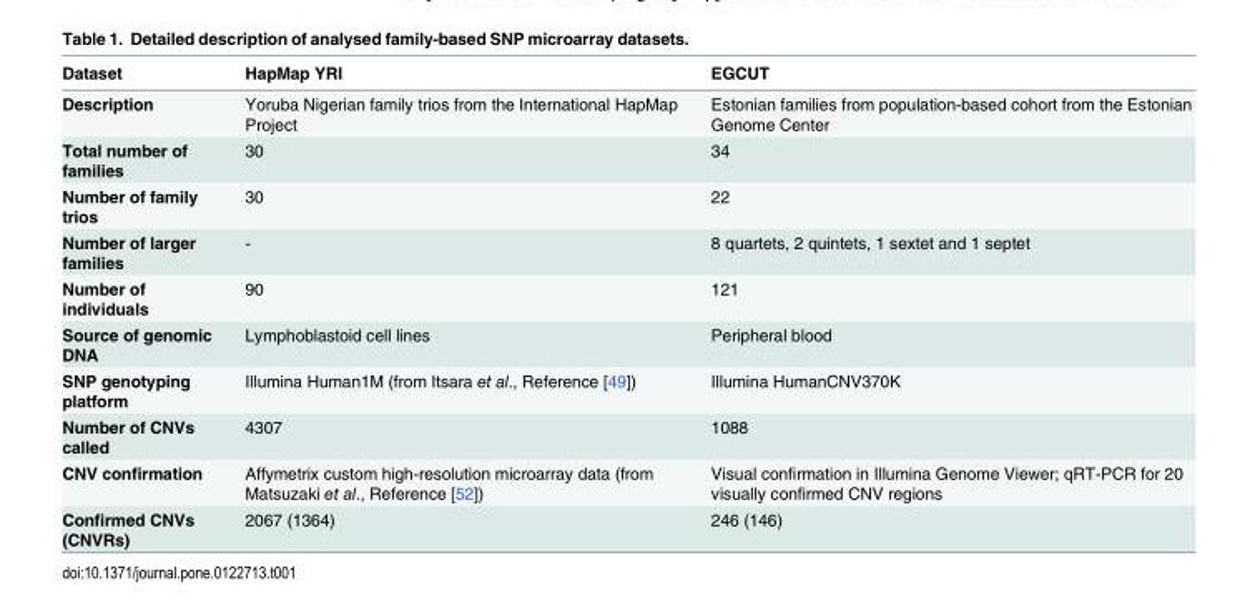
<table><thead><tr><td>Dataset</td><td>HapMap YRI</td><td>EGCUT</td></tr></thead><tbody><tr><td>Description</td><td>Yoruba Nigerian family trios from the International HapMap Project</td><td>Estonian families from population-based cohort from the Estonian Genome Center</td></tr><tr><td>Total number of families</td><td>30</td><td>34</td></tr><tr><td>Number of family trios</td><td>30</td><td>22</td></tr><tr><td>Number of larger families</td><td>-</td><td>8 quartets, 2 quintets, 1 sextet and 1 septet</td></tr><tr><td>Number of individuals</td><td>90</td><td>121</td></tr><tr><td>Source of genomic DNA</td><td>Lymphoblastoid cell lines</td><td>Peripheral blood</td></tr><tr><td>SNP genotyping platform</td><td>Illumina Human1M (from Itsara et al., Reference [49])</td><td>Illumina HumanCNV370K</td></tr><tr><td>Number of CNVs called</td><td>4307</td><td>1088</td></tr><tr><td>CNV confirmation</td><td>Affymetrix custom high-resolution microarray data (from Matsuzaki et al., Reference [52])</td><td>Visual confirmation in Illumina Genome Viewer; qRT-PCR for 20 visually confirmed CNV regions</td></tr><tr><td>Confirmed CNVs (CNVRs)</td><td>2067 (1364)</td><td>246 (146)</td></tr></tbody></table>